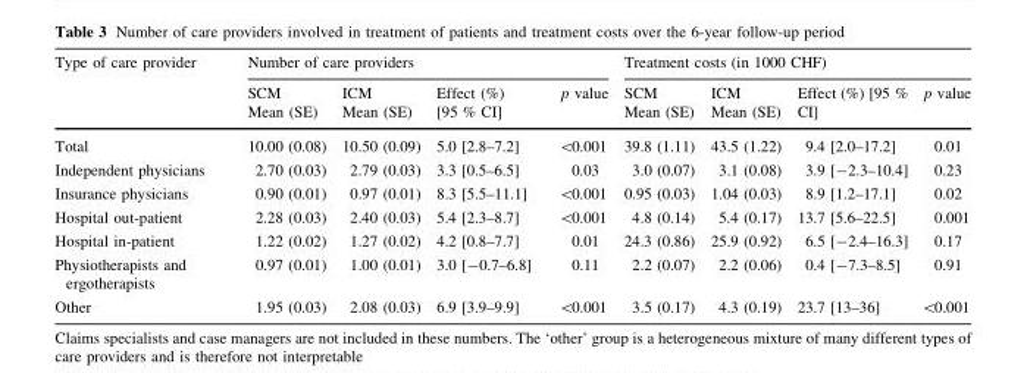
<table><thead><tr><td rowspan="2">Type of care provider</td><td colspan="4">Number of care providers</td><td colspan="4">Treatment costs (in 1000 CHF)</td></tr><tr><td>SCM Mean (SE)</td><td>ICM Mean (SE)</td><td>Effect (%) [95 % CI]</td><td>p value</td><td>SCM Mean (SE)</td><td>ICM Mean (SE)</td><td>Effect (%) [95 % CI]</td><td>p value</td></tr></thead><tbody><tr><td>Total</td><td>10.00 (0.08)</td><td>10.50 (0.09)</td><td>5.0 [2.8–7.2]</td><td>&lt;0.001</td><td>39.8 (1.11)</td><td>43.5 (1.22)</td><td>9.4 [2.0–17.2]</td><td>0.01</td></tr><tr><td>Independent physicians</td><td>2.70 (0.03)</td><td>2.79 (0.03)</td><td>3.3 [0.5–6.5]</td><td>0.03</td><td>3.0 (0.07)</td><td>3.1 (0.08)</td><td>3.9 [-2.3–10.4]</td><td>0.23</td></tr><tr><td>Insurance physicians</td><td>0.90 (0.01)</td><td>0.97 (0.01)</td><td>8.3 [5.5–11.1]</td><td>&lt;0.001</td><td>0.95 (0.03)</td><td>1.04 (0.03)</td><td>8.9 [1.2–17.1]</td><td>0.02</td></tr><tr><td>Hospital out-patient</td><td>2.28 (0.03)</td><td>2.40 (0.03)</td><td>5.4 [2.3–8.7]</td><td>&lt;0.001</td><td>4.8 (0.14)</td><td>5.4 (0.17)</td><td>13.7 [5.6–22.5]</td><td>0.001</td></tr><tr><td>Hospital in-patient</td><td>1.22 (0.02)</td><td>1.27 (0.02)</td><td>4.2 [0.8–7.7]</td><td>0.01</td><td>24.3 (0.86)</td><td>25.9 (0.92)</td><td>6.5 [-2.4–16.3]</td><td>0.17</td></tr><tr><td>Physiotherapists and ergotherapists</td><td>0.97 (0.01)</td><td>1.00 (0.01)</td><td>3.0 [-0.7–6.8]</td><td>0.11</td><td>2.2 (0.07)</td><td>2.2 (0.06)</td><td>0.4 [-7.3–8.5]</td><td>0.91</td></tr><tr><td>Other</td><td>1.95 (0.03)</td><td>2.08 (0.03)</td><td>6.9 [3.9–9.9]</td><td>&lt;0.001</td><td>3.5 (0.17)</td><td>4.3 (0.19)</td><td>23.7 [13–36]</td><td>&lt;0.001</td></tr></tbody></table>